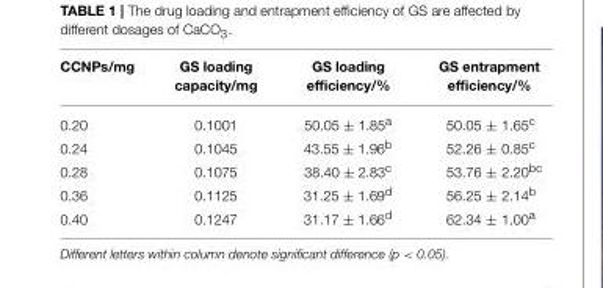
<table><thead><tr><td>CCNPs/mg</td><td>GS loading capacity/mg</td><td>GS loading efficiency/%</td><td>GS entrapment efficiency/%</td></tr></thead><tbody><tr><td>0.20</td><td>0.1001</td><td>50.05 ± 1.85<sup>a</sup></td><td>50.05 ± 1.65<sup>c</sup></td></tr><tr><td>0.24</td><td>0.1045</td><td>43.55 ± 1.96<sup>b</sup></td><td>52.26 ± 0.85<sup>c</sup></td></tr><tr><td>0.28</td><td>0.1075</td><td>38.40 ± 2.83<sup>c</sup></td><td>53.76 ± 2.20<sup>bc</sup></td></tr><tr><td>0.36</td><td>0.1125</td><td>31.25 ± 1.69<sup>d</sup></td><td>56.25 ± 2.14<sup>b</sup></td></tr><tr><td>0.40</td><td>0.1247</td><td>31.17 ± 1.66<sup>d</sup></td><td>62.34 ± 1.00<sup>a</sup></td></tr></tbody></table>